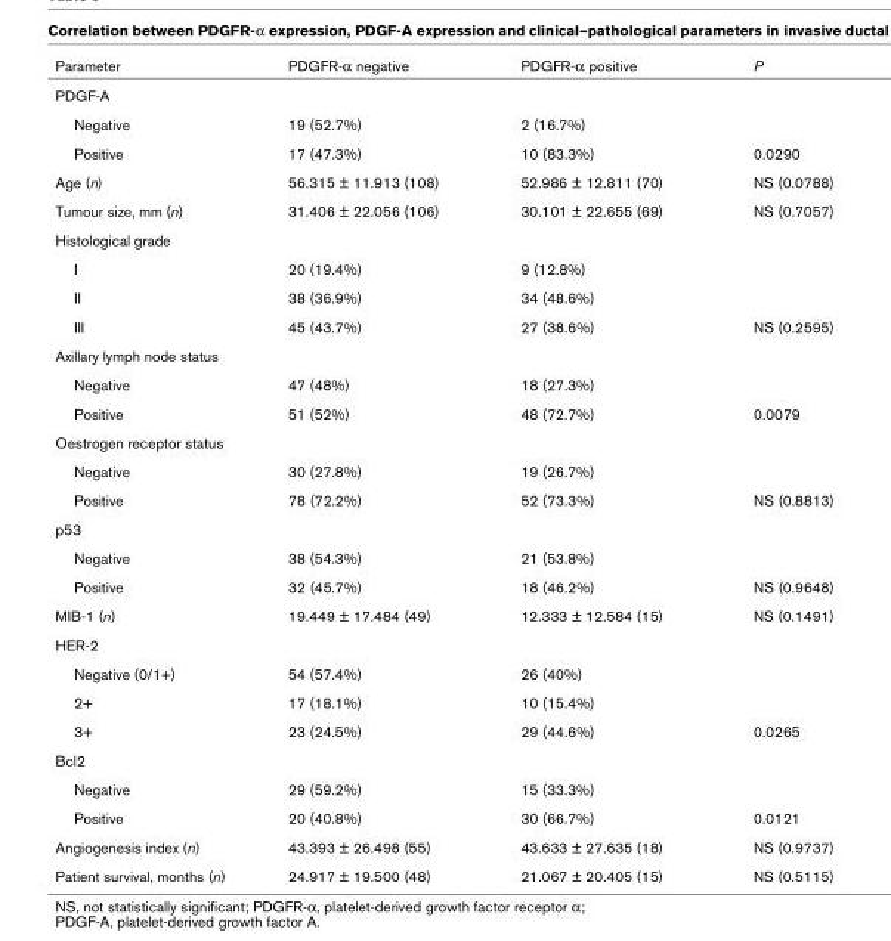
<table><thead><tr><td>Parameter</td><td>PDGFR-α negative</td><td>PDGFR-α positive</td><td>P</td></tr></thead><tbody><tr><td colspan="4">PDGF-A</td></tr><tr><td>Negative</td><td>19 (52.7%)</td><td>2 (16.7%)</td><td></td></tr><tr><td>Positive</td><td>17 (47.3%)</td><td>10 (83.3%)</td><td>0.0290</td></tr><tr><td>Age (n)</td><td>56.315 ± 11.913 (108)</td><td>52.986 ± 12.811 (70)</td><td>NS (0.0788)</td></tr><tr><td>Tumour size, mm (n)</td><td>31.406 ± 22.056 (106)</td><td>30.101 ± 22.655 (69)</td><td>NS (0.7057)</td></tr><tr><td colspan="4">Histological grade</td></tr><tr><td>I</td><td>20 (19.4%)</td><td>9 (12.8%)</td><td></td></tr><tr><td>II</td><td>38 (36.9%)</td><td>34 (48.6%)</td><td></td></tr><tr><td>III</td><td>45 (43.7%)</td><td>27 (38.6%)</td><td>NS (0.2595)</td></tr><tr><td colspan="4">Axillary lymph node status</td></tr><tr><td>Negative</td><td>47 (48%)</td><td>18 (27.3%)</td><td></td></tr><tr><td>Positive</td><td>51 (52%)</td><td>48 (72.7%)</td><td>0.0079</td></tr><tr><td colspan="4">Oestrogen receptor status</td></tr><tr><td>Negative</td><td>30 (27.8%)</td><td>19 (26.7%)</td><td></td></tr><tr><td>Positive</td><td>78 (72.2%)</td><td>52 (73.3%)</td><td>NS (0.8813)</td></tr><tr><td colspan="4">p53</td></tr><tr><td>Negative</td><td>38 (54.3%)</td><td>21 (53.8%)</td><td></td></tr><tr><td>Positive</td><td>32 (45.7%)</td><td>18 (46.2%)</td><td>NS (0.9648)</td></tr><tr><td>MIB-1 (n)</td><td>19.449 ± 17.484 (49)</td><td>12.333 ± 12.584 (15)</td><td>NS (0.1491)</td></tr><tr><td colspan="4">HER-2</td></tr><tr><td>Negative (0/1+)</td><td>54 (57.4%)</td><td>26 (40%)</td><td></td></tr><tr><td>2+</td><td>17 (18.1%)</td><td>10 (15.4%)</td><td></td></tr><tr><td>3+</td><td>23 (24.5%)</td><td>29 (44.6%)</td><td>0.0265</td></tr><tr><td colspan="4">Bcl2</td></tr><tr><td>Negative</td><td>29 (59.2%)</td><td>15 (33.3%)</td><td></td></tr><tr><td>Positive</td><td>20 (40.8%)</td><td>30 (66.7%)</td><td>0.0121</td></tr><tr><td>Angiogenesis index (n)</td><td>43.393 ± 26.498 (55)</td><td>43.633 ± 27.635 (18)</td><td>NS (0.9737)</td></tr><tr><td>Patient survival, months (n)</td><td>24.917 ± 19.500 (48)</td><td>21.067 ± 20.405 (15)</td><td>NS (0.5115)</td></tr></tbody></table>